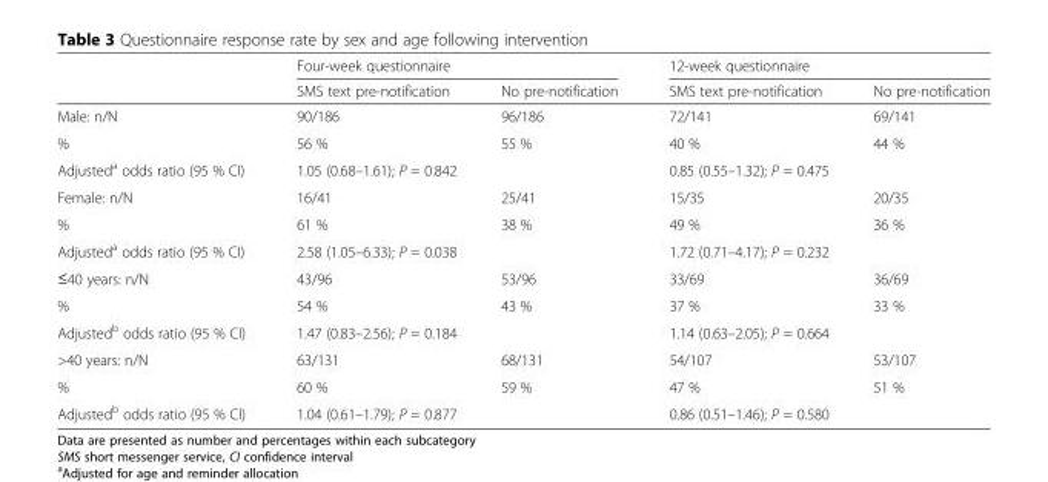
<table><thead><tr><td rowspan="2"></td><td colspan="2">Four-week questionnaire</td><td colspan="2">12-week questionnaire</td></tr><tr><td>SMS text pre-notification</td><td>No pre-notification</td><td>SMS text pre-notification</td><td>No pre-notification</td></tr></thead><tbody><tr><td>Male: n/N</td><td>90/186</td><td>96/186</td><td>72/141</td><td>69/141</td></tr><tr><td>%</td><td>56 %</td><td>55 %</td><td>40 %</td><td>44 %</td></tr><tr><td>Adjusted<sup>a</sup> odds ratio (95 % CI)</td><td colspan="2">1.05 (0.68–1.61); P = 0.842</td><td colspan="2">0.85 (0.55–1.32); P = 0.475</td></tr><tr><td>Female: n/N</td><td>16/41</td><td>25/41</td><td>15/35</td><td>20/35</td></tr><tr><td>%</td><td>61 %</td><td>38 %</td><td>49 %</td><td>36 %</td></tr><tr><td>Adjusted<sup>a</sup> odds ratio (95 % CI)</td><td colspan="2">2.58 (1.05–6.33); P = 0.038</td><td colspan="2">1.72 (0.71–4.17); P = 0.232</td></tr><tr><td>≤40 years: n/N</td><td>43/96</td><td>53/96</td><td>33/69</td><td>36/69</td></tr><tr><td>%</td><td>54 %</td><td>43 %</td><td>37 %</td><td>33 %</td></tr><tr><td>Adjusted<sup>b</sup> odds ratio (95 % CI)</td><td colspan="2">1.47 (0.83–2.56); P = 0.184</td><td colspan="2">1.14 (0.63–2.05); P = 0.664</td></tr><tr><td>&gt;40 years: n/N</td><td>63/131</td><td>68/131</td><td>54/107</td><td>53/107</td></tr><tr><td>%</td><td>60 %</td><td>59 %</td><td>47 %</td><td>51 %</td></tr><tr><td>Adjusted<sup>b</sup> odds ratio (95 % CI)</td><td colspan="2">1.04 (0.61–1.79); P = 0.877</td><td colspan="2">0.86 (0.51–1.46); P = 0.580</td></tr></tbody></table>